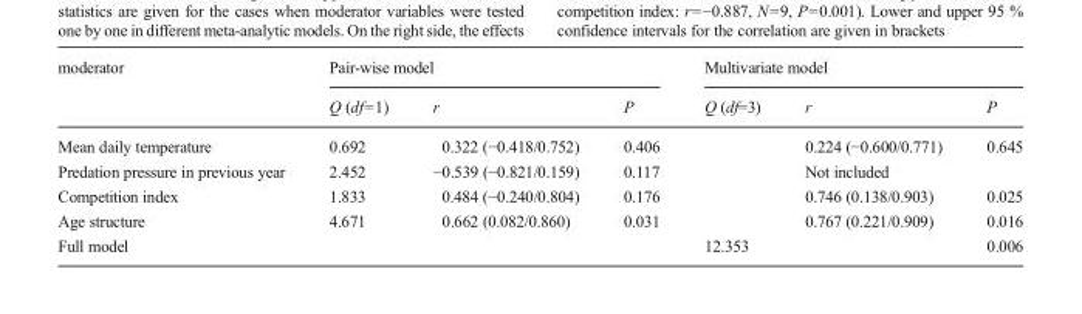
<table><thead><tr><td rowspan="2">moderator</td><td colspan="3">Pair-wise model</td><td colspan="3">Multivariate model</td></tr><tr><td>Q (df=1)</td><td>r</td><td>P</td><td>Q (df=3)</td><td>r</td><td>P</td></tr></thead><tbody><tr><td>Mean daily temperature</td><td>0.692</td><td>0.322 (−0.418/0.752)</td><td>0.406</td><td></td><td>0.224 (−0.600/0.771)</td><td>0.645</td></tr><tr><td>Predation pressure in previous year</td><td>2.452</td><td>−0.539 (−0.821/0.159)</td><td>0.117</td><td></td><td colspan="2">Not included</td></tr><tr><td>Competition index</td><td>1.833</td><td>0.484 (−0.240/0.804)</td><td>0.176</td><td></td><td>0.746 (0.138/0.903)</td><td>0.025</td></tr><tr><td>Age structure</td><td>4.671</td><td>0.662 (0.082/0.860)</td><td>0.031</td><td></td><td>0.767 (0.221/0.909)</td><td>0.016</td></tr><tr><td>Full model</td><td></td><td></td><td></td><td>12.353</td><td></td><td>0.006</td></tr></tbody></table>